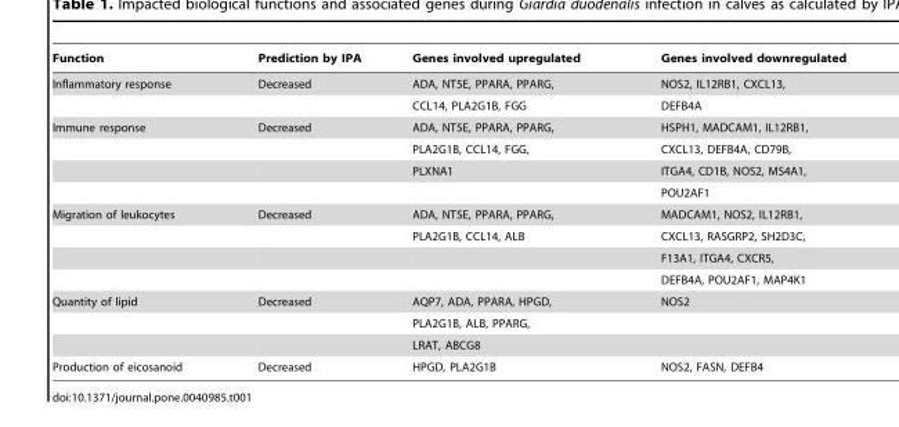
<table><thead><tr><td>Function</td><td>Prediction by IPA</td><td>Genes involved upregulated</td><td>Genes involved downregulated</td></tr></thead><tbody><tr><td rowspan="2">Inflammatory response</td><td>Decreased</td><td>ADA, NT5E, PPARA, PPARG,</td><td>NOS2, IL12RB1, CXCL13,</td></tr><tr><td></td><td>CCL14, PLA2G1B, FGG</td><td>DEFB4A</td></tr><tr><td rowspan="4">Immune response</td><td>Decreased</td><td>ADA, NT5E, PPARA, PPARG,</td><td>HSPH1, MADCAM1, IL12RB1,</td></tr><tr><td></td><td>PLA2G1B, CCL14, FGG,</td><td>CXCL13, DEFB4A, CD79B,</td></tr><tr><td></td><td>PLXNA1</td><td>ITGA4, CD1B, NOS2, MS4A1,</td></tr><tr><td></td><td></td><td>POU2AF1</td></tr><tr><td rowspan="4">Migration of leukocytes</td><td>Decreased</td><td>ADA, NT5E, PPARA, PPARG,</td><td>MADCAM1, NOS2, IL12RB1,</td></tr><tr><td></td><td>PLA2G1B, CCL14, ALB</td><td>CXCL13, RASGRP2, SH2D3C,</td></tr><tr><td></td><td></td><td>F13A1, ITGA4, CXCR5,</td></tr><tr><td></td><td></td><td>DEFB4A, POU2AF1, MAP4K1</td></tr><tr><td rowspan="3">Quantity of lipid</td><td>Decreased</td><td>AQP7, ADA, PPARA, HPGD,</td><td>NOS2</td></tr><tr><td></td><td>PLA2G1B, ALB, PPARG,</td><td></td></tr><tr><td></td><td>LRAT, ABCG8</td><td></td></tr><tr><td>Production of eicosanoid</td><td>Decreased</td><td>HPGD, PLA2G1B</td><td>NOS2, FASN, DEFB4</td></tr></tbody></table>